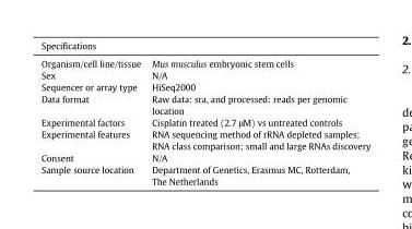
<table><thead><tr><td colspan="2">Specifications</td></tr><tr><td>Organism/cell line/tissue</td><td>Mus musculus embryonic stem cells</td></tr></thead><tbody><tr><td>Sex</td><td>N/A</td></tr><tr><td>Sequencer or array type</td><td>HiSeq2000</td></tr><tr><td>Data format</td><td>Raw data: sra, and processed: reads per genomic location</td></tr><tr><td>Experimental factors</td><td>Cisplatin treated (2.7 μM) vs untreated controls</td></tr><tr><td>Experimental features</td><td>RNA sequencing method of rRNA depleted samples; RNA class comparison; small and large RNAs discovery</td></tr><tr><td>Consent</td><td>N/A</td></tr><tr><td>Sample source location</td><td>Department of Genetics, Erasmus MC, Rotterdam, The Netherlands</td></tr></tbody></table>